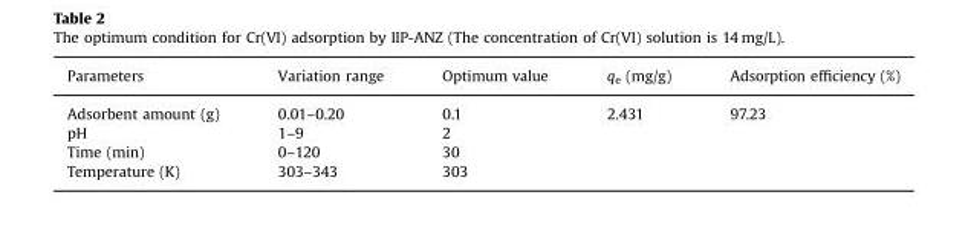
<table><thead><tr><td>Parameters</td><td>Variation range</td><td>Optimum value</td><td>q<sub>e</sub> (mg/g)</td><td>Adsorption efficiency (%)</td></tr></thead><tbody><tr><td>Adsorbent amount (g)</td><td>0.01–0.20</td><td>0.1</td><td rowspan="4">2.431</td><td rowspan="4">97.23</td></tr><tr><td>pH</td><td>1–9</td><td>2</td></tr><tr><td>Time (min)</td><td>0–120</td><td>30</td></tr><tr><td>Temperature (K)</td><td>303–343</td><td>303</td></tr></tbody></table>